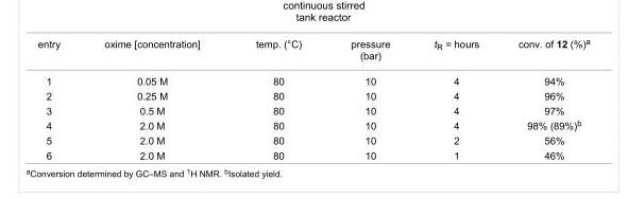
<table><tbody><tr><td>entry</td><td>oxime [concentration]</td><td>temp. (°C)</td><td>pressure (bar)</td><td>t<sub>R</sub> = hours</td><td>conv. of 12 (%)<sup>a</sup></td></tr><tr><td>1</td><td>0.05 M</td><td>80</td><td>10</td><td>4</td><td>94%</td></tr><tr><td>2</td><td>0.25 M</td><td>80</td><td>10</td><td>4</td><td>96%</td></tr><tr><td>3</td><td>0.5 M</td><td>80</td><td>10</td><td>4</td><td>97%</td></tr><tr><td>4</td><td>2.0 M</td><td>80</td><td>10</td><td>4</td><td>98% (89%)<sup>b</sup></td></tr><tr><td>5</td><td>2.0 M</td><td>80</td><td>10</td><td>2</td><td>56%</td></tr><tr><td>6</td><td>2.0 M</td><td>80</td><td>10</td><td>1</td><td>46%</td></tr></tbody></table>